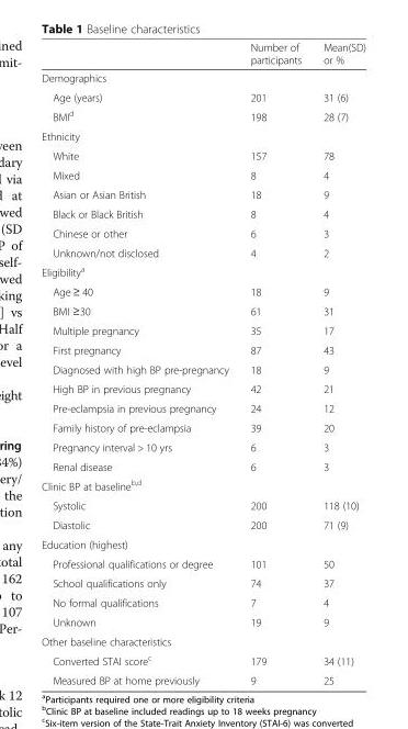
<table><thead><tr><td></td><td>Number of participants</td><td>Mean(SD) or %</td></tr></thead><tbody><tr><td colspan="3">Demographics</td></tr><tr><td>Age (years)</td><td>201</td><td>31 (6)</td></tr><tr><td>BMI<sup>d</sup></td><td>198</td><td>28 (7)</td></tr><tr><td colspan="3">Ethnicity</td></tr><tr><td>White</td><td>157</td><td>78</td></tr><tr><td>Mixed</td><td>8</td><td>4</td></tr><tr><td>Asian or Asian British</td><td>18</td><td>9</td></tr><tr><td>Black or Black British</td><td>8</td><td>4</td></tr><tr><td>Chinese or other</td><td>6</td><td>3</td></tr><tr><td>Unknown/not disclosed</td><td>4</td><td>2</td></tr><tr><td colspan="3">Eligibility<sup>a</sup></td></tr><tr><td>Age ≥ 40</td><td>18</td><td>9</td></tr><tr><td>BMI ≥30</td><td>61</td><td>31</td></tr><tr><td>Multiple pregnancy</td><td>35</td><td>17</td></tr><tr><td>First pregnancy</td><td>87</td><td>43</td></tr><tr><td>Diagnosed with high BP pre-pregnancy</td><td>18</td><td>9</td></tr><tr><td>High BP in previous pregnancy</td><td>42</td><td>21</td></tr><tr><td>Pre-eclampsia in previous pregnancy</td><td>24</td><td>12</td></tr><tr><td>Family history of pre-eclampsia</td><td>39</td><td>20</td></tr><tr><td>Pregnancy interval &gt; 10 yrs</td><td>6</td><td>3</td></tr><tr><td>Renal disease</td><td>6</td><td>3</td></tr><tr><td colspan="3">Clinic BP at baseline<sup>b,d</sup></td></tr><tr><td>Systolic</td><td>200</td><td>118 (10)</td></tr><tr><td>Diastolic</td><td>200</td><td>71 (9)</td></tr><tr><td colspan="3">Education (highest)</td></tr><tr><td>Professional qualifications or degree</td><td>101</td><td>50</td></tr><tr><td>School qualifications only</td><td>74</td><td>37</td></tr><tr><td>No formal qualifications</td><td>7</td><td>4</td></tr><tr><td>Unknown</td><td>19</td><td>9</td></tr><tr><td colspan="3">Other baseline characteristics</td></tr><tr><td>Converted STAI score<sup>c</sup></td><td>179</td><td>34 (11)</td></tr><tr><td>Measured BP at home previously</td><td>9</td><td>25</td></tr></tbody></table>